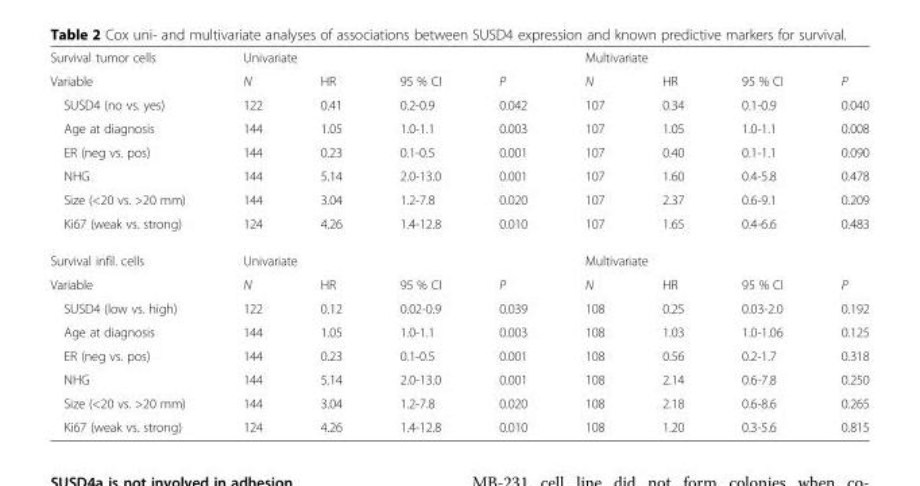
<table><tbody><tr><td>Survival tumor cells</td><td colspan="4">Univariate</td><td colspan="4">Multivariate</td></tr><tr><td>Variable</td><td>N</td><td>HR</td><td>95 % CI</td><td>P</td><td>N</td><td>HR</td><td>95 % CI</td><td>P</td></tr><tr><td>SUSD4 (no vs. yes)</td><td>122</td><td>0.41</td><td>0.2-0.9</td><td>0.042</td><td>107</td><td>0.34</td><td>0.1-0.9</td><td>0.040</td></tr><tr><td>Age at diagnosis</td><td>144</td><td>1.05</td><td>1.0-1.1</td><td>0.003</td><td>107</td><td>1.05</td><td>1.0-1.1</td><td>0.008</td></tr><tr><td>ER (neg vs. pos)</td><td>144</td><td>0.23</td><td>0.1-0.5</td><td>0.001</td><td>107</td><td>0.40</td><td>0.1-1.1</td><td>0.090</td></tr><tr><td>NHG</td><td>144</td><td>5.14</td><td>2.0-13.0</td><td>0.001</td><td>107</td><td>1.60</td><td>0.4-5.8</td><td>0.478</td></tr><tr><td>Size (&lt;20 vs. &gt;20 mm)</td><td>144</td><td>3.04</td><td>1.2-7.8</td><td>0.020</td><td>107</td><td>2.37</td><td>0.6-9.1</td><td>0.209</td></tr><tr><td>Ki67 (weak vs. strong)</td><td>124</td><td>4.26</td><td>1.4-12.8</td><td>0.010</td><td>107</td><td>1.65</td><td>0.4-6.6</td><td>0.483</td></tr><tr><td>Survival infil. cells</td><td colspan="4">Univariate</td><td colspan="4">Multivariate</td></tr><tr><td>Variable</td><td>N</td><td>HR</td><td>95 % CI</td><td>P</td><td>N</td><td>HR</td><td>95 % CI</td><td>P</td></tr><tr><td>SUSD4 (low vs. high)</td><td>122</td><td>0.12</td><td>0.02-0.9</td><td>0.039</td><td>108</td><td>0.25</td><td>0.03-2.0</td><td>0.192</td></tr><tr><td>Age at diagnosis</td><td>144</td><td>1.05</td><td>1.0-1.1</td><td>0.003</td><td>108</td><td>1.03</td><td>1.0-1.06</td><td>0.125</td></tr><tr><td>ER (neg vs. pos)</td><td>144</td><td>0.23</td><td>0.1-0.5</td><td>0.001</td><td>108</td><td>0.56</td><td>0.2-1.7</td><td>0.318</td></tr><tr><td>NHG</td><td>144</td><td>5.14</td><td>2.0-13.0</td><td>0.001</td><td>108</td><td>2.14</td><td>0.6-7.8</td><td>0.250</td></tr><tr><td>Size (&lt;20 vs. &gt;20 mm)</td><td>144</td><td>3.04</td><td>1.2-7.8</td><td>0.020</td><td>108</td><td>2.18</td><td>0.6-8.6</td><td>0.265</td></tr><tr><td>Ki67 (weak vs. strong)</td><td>124</td><td>4.26</td><td>1.4-12.8</td><td>0.010</td><td>108</td><td>1.20</td><td>0.3-5.6</td><td>0.815</td></tr></tbody></table>